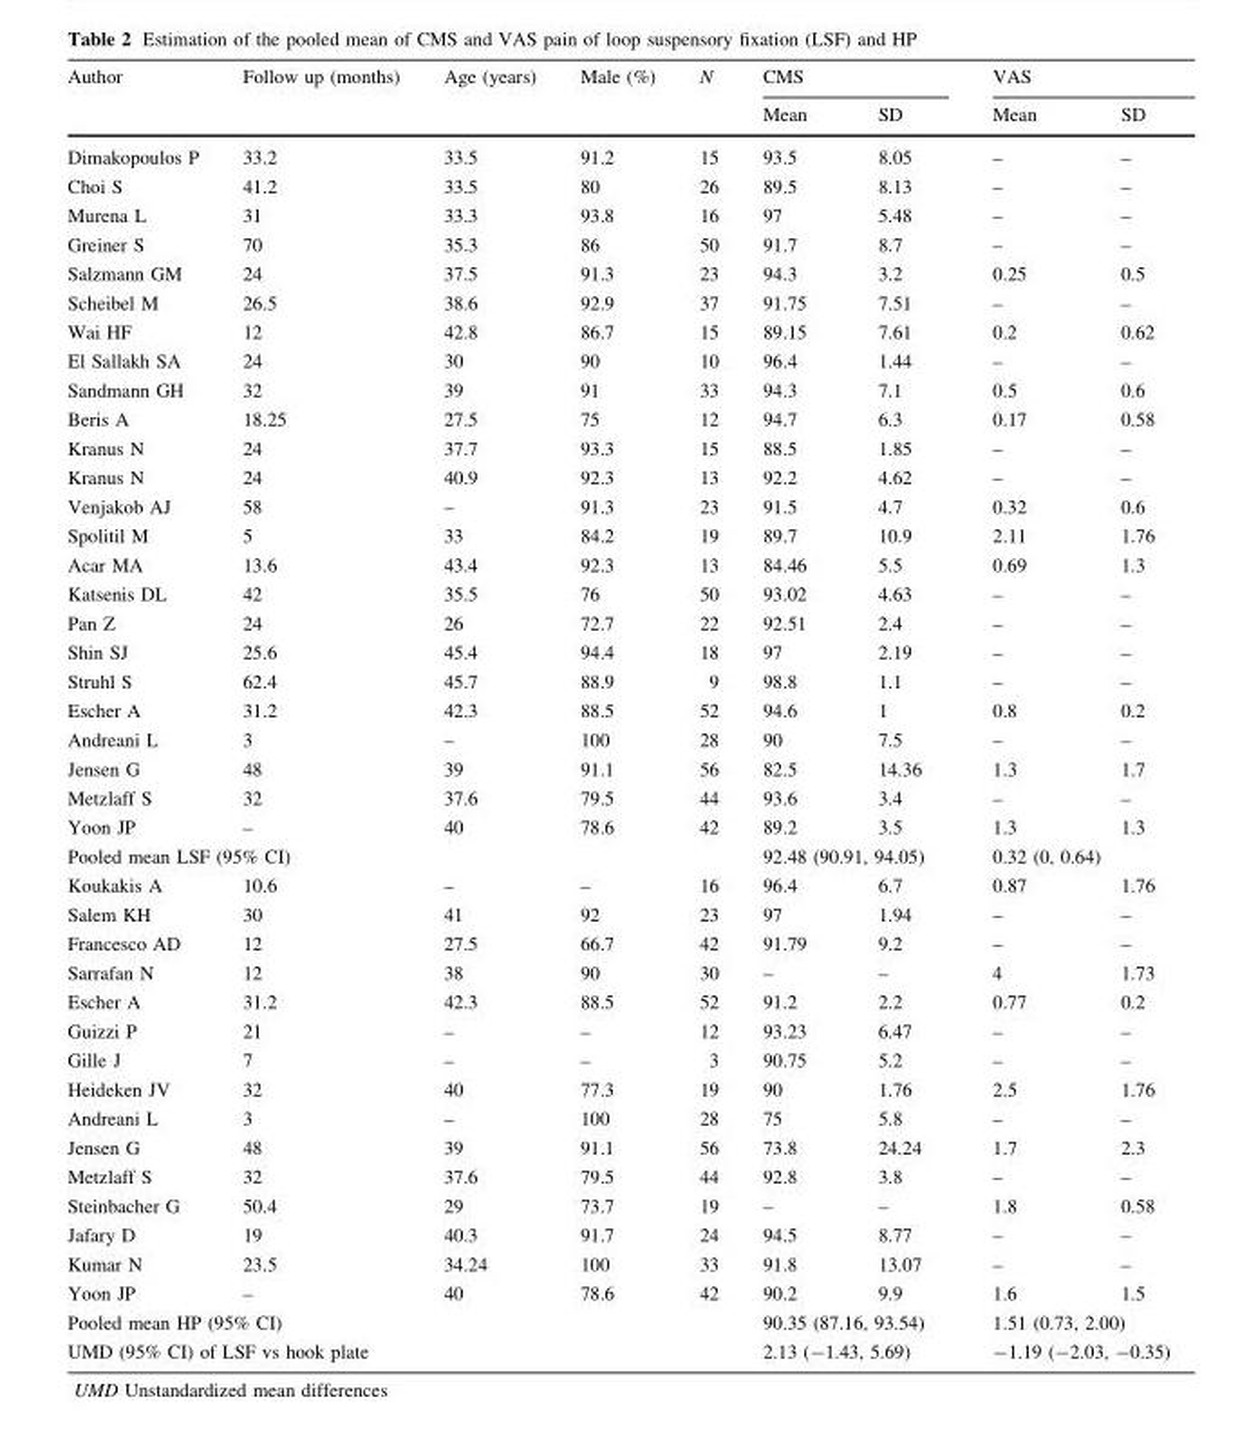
<table><thead><tr><td rowspan="2">Author</td><td rowspan="2">Follow up (months)</td><td rowspan="2">Age (years)</td><td rowspan="2">Male (%)</td><td rowspan="2">N</td><td colspan="2">CMS</td><td colspan="2">VAS</td></tr><tr><td>Mean</td><td>SD</td><td>Mean</td><td>SD</td></tr></thead><tbody><tr><td>Dimakopoulos P</td><td>33.2</td><td>33.5</td><td>91.2</td><td>15</td><td>93.5</td><td>8.05</td><td>–</td><td>–</td></tr><tr><td>Choi S</td><td>41.2</td><td>33.5</td><td>80</td><td>26</td><td>89.5</td><td>8.13</td><td>–</td><td>–</td></tr><tr><td>Murena L</td><td>31</td><td>33.3</td><td>93.8</td><td>16</td><td>97</td><td>5.48</td><td>–</td><td>–</td></tr><tr><td>Greiner S</td><td>70</td><td>35.3</td><td>86</td><td>50</td><td>91.7</td><td>8.7</td><td>–</td><td>–</td></tr><tr><td>Salzmann GM</td><td>24</td><td>37.5</td><td>91.3</td><td>23</td><td>94.3</td><td>3.2</td><td>0.25</td><td>0.5</td></tr><tr><td>Scheibel M</td><td>26.5</td><td>38.6</td><td>92.9</td><td>37</td><td>91.75</td><td>7.51</td><td>–</td><td>–</td></tr><tr><td>Wai HF</td><td>12</td><td>42.8</td><td>86.7</td><td>15</td><td>89.15</td><td>7.61</td><td>0.2</td><td>0.62</td></tr><tr><td>El Sallakh SA</td><td>24</td><td>30</td><td>90</td><td>10</td><td>96.4</td><td>1.44</td><td>–</td><td>–</td></tr><tr><td>Sandmann GH</td><td>32</td><td>39</td><td>91</td><td>33</td><td>94.3</td><td>7.1</td><td>0.5</td><td>0.6</td></tr><tr><td>Beris A</td><td>18.25</td><td>27.5</td><td>75</td><td>12</td><td>94.7</td><td>6.3</td><td>0.17</td><td>0.58</td></tr><tr><td>Kranus N</td><td>24</td><td>37.7</td><td>93.3</td><td>15</td><td>88.5</td><td>1.85</td><td>–</td><td>–</td></tr><tr><td>Kranus N</td><td>24</td><td>40.9</td><td>92.3</td><td>13</td><td>92.2</td><td>4.62</td><td>–</td><td>–</td></tr><tr><td>Venjakob AJ</td><td>58</td><td>–</td><td>91.3</td><td>23</td><td>91.5</td><td>4.7</td><td>0.32</td><td>0.6</td></tr><tr><td>Spolitil M</td><td>5</td><td>33</td><td>84.2</td><td>19</td><td>89.7</td><td>10.9</td><td>2.11</td><td>1.76</td></tr><tr><td>Acar MA</td><td>13.6</td><td>43.4</td><td>92.3</td><td>13</td><td>84.46</td><td>5.5</td><td>0.69</td><td>1.3</td></tr><tr><td>Katsenis DL</td><td>42</td><td>35.5</td><td>76</td><td>50</td><td>93.02</td><td>4.63</td><td>–</td><td>–</td></tr><tr><td>Pan Z</td><td>24</td><td>26</td><td>72.7</td><td>22</td><td>92.51</td><td>2.4</td><td>–</td><td>–</td></tr><tr><td>Shin SJ</td><td>25.6</td><td>45.4</td><td>94.4</td><td>18</td><td>97</td><td>2.19</td><td>–</td><td>–</td></tr><tr><td>Struhl S</td><td>62.4</td><td>45.7</td><td>88.9</td><td>9</td><td>98.8</td><td>1.1</td><td>–</td><td>–</td></tr><tr><td>Escher A</td><td>31.2</td><td>42.3</td><td>88.5</td><td>52</td><td>94.6</td><td>1</td><td>0.8</td><td>0.2</td></tr><tr><td>Andreani L</td><td>3</td><td>–</td><td>100</td><td>28</td><td>90</td><td>7.5</td><td>–</td><td>–</td></tr><tr><td>Jensen G</td><td>48</td><td>39</td><td>91.1</td><td>56</td><td>82.5</td><td>14.36</td><td>1.3</td><td>1.7</td></tr><tr><td>Metzlaff S</td><td>32</td><td>37.6</td><td>79.5</td><td>44</td><td>93.6</td><td>3.4</td><td>–</td><td>–</td></tr><tr><td>Yoon JP</td><td>–</td><td>40</td><td>78.6</td><td>42</td><td>89.2</td><td>3.5</td><td>1.3</td><td>1.3</td></tr><tr><td colspan="5">Pooled mean LSF (95% CI)</td><td colspan="2">92.48 (90.91, 94.05)</td><td colspan="2">0.32 (0, 0.64)</td></tr><tr><td>Koukakis A</td><td>10.6</td><td>–</td><td>–</td><td>16</td><td>96.4</td><td>6.7</td><td>0.87</td><td>1.76</td></tr><tr><td>Salem KH</td><td>30</td><td>41</td><td>92</td><td>23</td><td>97</td><td>1.94</td><td>–</td><td>–</td></tr><tr><td>Francesco AD</td><td>12</td><td>27.5</td><td>66.7</td><td>42</td><td>91.79</td><td>9.2</td><td>–</td><td>–</td></tr><tr><td>Sarrafan N</td><td>12</td><td>38</td><td>90</td><td>30</td><td>–</td><td>–</td><td>4</td><td>1.73</td></tr><tr><td>Escher A</td><td>31.2</td><td>42.3</td><td>88.5</td><td>52</td><td>91.2</td><td>2.2</td><td>0.77</td><td>0.2</td></tr><tr><td>Guizzi P</td><td>21</td><td>–</td><td>–</td><td>12</td><td>93.23</td><td>6.47</td><td>–</td><td>–</td></tr><tr><td>Gille J</td><td>7</td><td>–</td><td>–</td><td>3</td><td>90.75</td><td>5.2</td><td>–</td><td>–</td></tr><tr><td>Heideken JV</td><td>32</td><td>40</td><td>77.3</td><td>19</td><td>90</td><td>1.76</td><td>2.5</td><td>1.76</td></tr><tr><td>Andreani L</td><td>3</td><td>–</td><td>100</td><td>28</td><td>75</td><td>5.8</td><td>–</td><td>–</td></tr><tr><td>Jensen G</td><td>48</td><td>39</td><td>91.1</td><td>56</td><td>73.8</td><td>24.24</td><td>1.7</td><td>2.3</td></tr><tr><td>Metzlaff S</td><td>32</td><td>37.6</td><td>79.5</td><td>44</td><td>92.8</td><td>3.8</td><td>–</td><td>–</td></tr><tr><td>Steinbacher G</td><td>50.4</td><td>29</td><td>73.7</td><td>19</td><td>–</td><td>–</td><td>1.8</td><td>0.58</td></tr><tr><td>Jafary D</td><td>19</td><td>40.3</td><td>91.7</td><td>24</td><td>94.5</td><td>8.77</td><td>–</td><td>–</td></tr><tr><td>Kumar N</td><td>23.5</td><td>34.24</td><td>100</td><td>33</td><td>91.8</td><td>13.07</td><td>–</td><td>–</td></tr><tr><td>Yoon JP</td><td>–</td><td>40</td><td>78.6</td><td>42</td><td>90.2</td><td>9.9</td><td>1.6</td><td>1.5</td></tr><tr><td colspan="5">Pooled mean HP (95% CI)</td><td colspan="2">90.35 (87.16, 93.54)</td><td colspan="2">1.51 (0.73, 2.00)</td></tr><tr><td colspan="5">UMD (95% CI) of LSF vs hook plate</td><td colspan="2">2.13 (-1.43, 5.69)</td><td colspan="2">-1.19 (-2.03, -0.35)</td></tr></tbody></table>